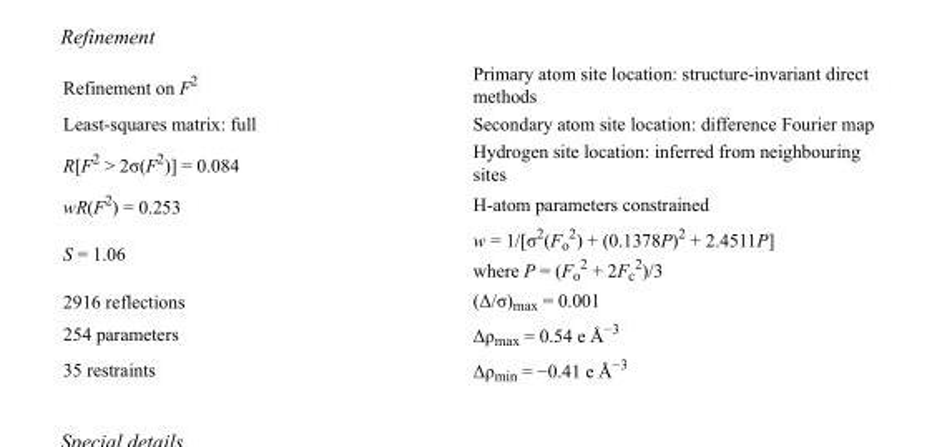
<table><tbody><tr><td>Refinement on F<sup>2</sup></td><td>Primary atom site location: structure-invariant direct methods</td></tr><tr><td>Least-squares matrix: full</td><td>Secondary atom site location: difference Fourier map</td></tr><tr><td>R[F<sup>2</sup> &gt; 2σ(F<sup>2</sup>)] = 0.084</td><td>Hydrogen site location: inferred from neighbouring sites</td></tr><tr><td>wR(F<sup>2</sup>) = 0.253</td><td>H-atom parameters constrained</td></tr><tr><td>S = 1.06</td><td>w = 1/[σ<sup>2</sup>(F<sub>o</sub> <sup>2</sup>) + (0.1378P)<sup>2</sup> + 2.4511P] where P = (F<sub>o</sub> <sup>2</sup> + 2F<sub>c</sub> <sup>2</sup>)/3</td></tr><tr><td>2916 reflections</td><td>(Δ/σ)<sub>max</sub> = 0.001</td></tr><tr><td>254 parameters</td><td>Δρ<sub>max</sub> = 0.54 e Å<sup>−3</sup></td></tr><tr><td>35 restraints</td><td>Δρmin = −0.41 e Å−3</td></tr></tbody></table>